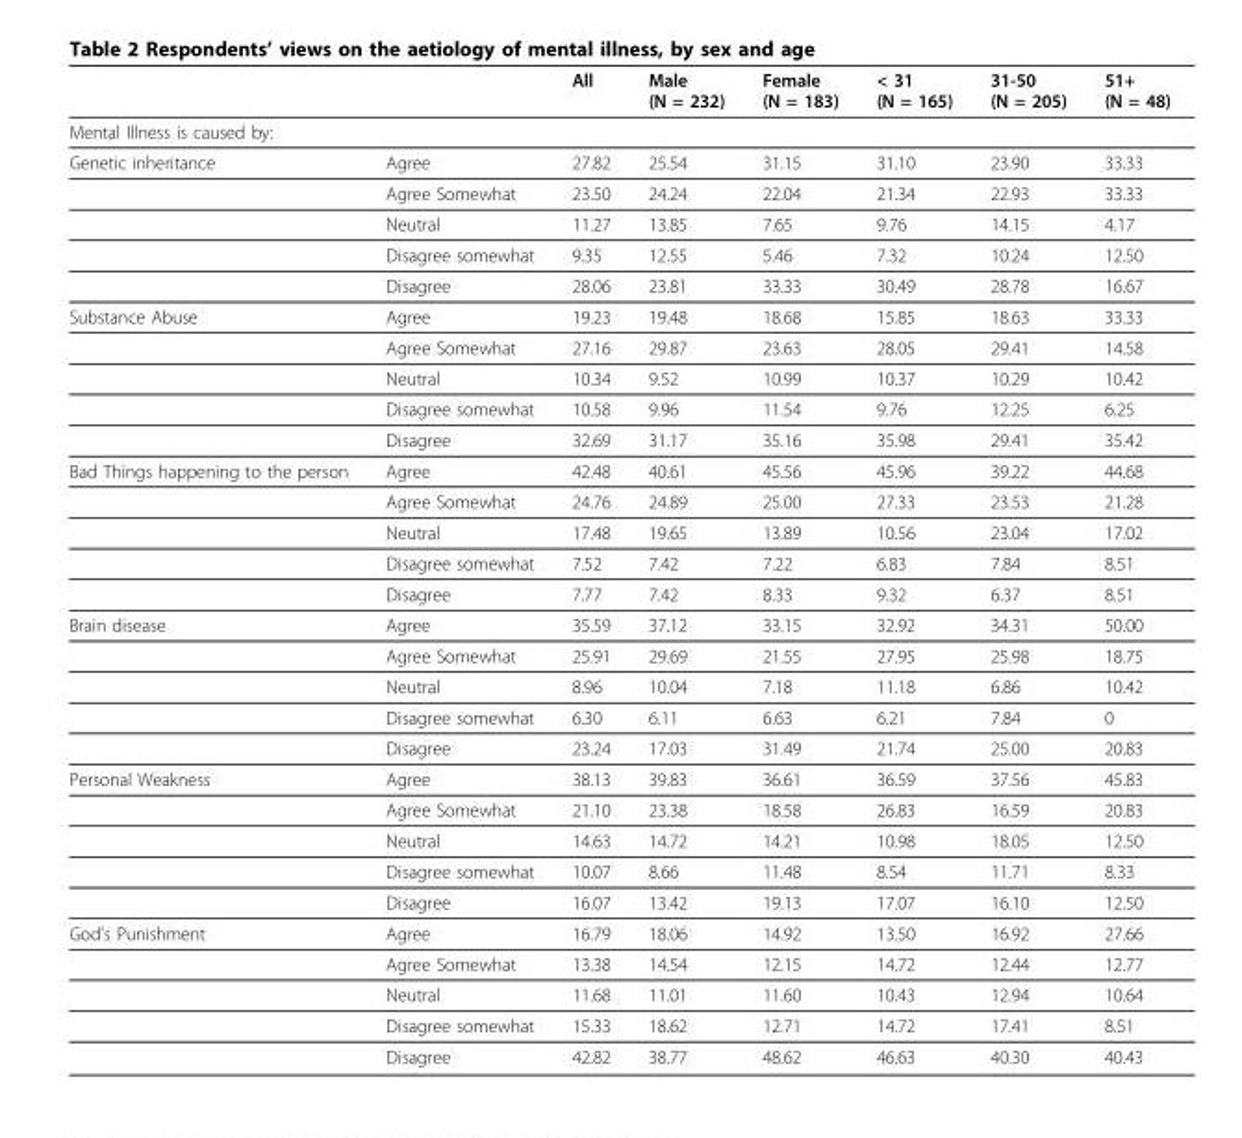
<table><thead><tr><td></td><td></td><td>All</td><td>Male (N = 232)</td><td>Female (N = 183)</td><td>&lt; 31 (N = 165)</td><td>31-50 (N = 205)</td><td>51+ (N = 48)</td></tr></thead><tbody><tr><td colspan="8">Mental Illness is caused by:</td></tr><tr><td rowspan="5">Genetic inheritance</td><td>Agree</td><td>27.82</td><td>25.54</td><td>31.15</td><td>31.10</td><td>23.90</td><td>33.33</td></tr><tr><td>Agree Somewhat</td><td>23.50</td><td>24.24</td><td>22.04</td><td>21.34</td><td>22.93</td><td>33.33</td></tr><tr><td>Neutral</td><td>11.27</td><td>13.85</td><td>7.65</td><td>9.76</td><td>14.15</td><td>4.17</td></tr><tr><td>Disagree somewhat</td><td>9.35</td><td>12.55</td><td>5.46</td><td>7.32</td><td>10.24</td><td>12.50</td></tr><tr><td>Disagree</td><td>28.06</td><td>23.81</td><td>33.33</td><td>30.49</td><td>28.78</td><td>16.67</td></tr><tr><td rowspan="5">Substance Abuse</td><td>Agree</td><td>19.23</td><td>19.48</td><td>18.68</td><td>15.85</td><td>18.63</td><td>33.33</td></tr><tr><td>Agree Somewhat</td><td>27.16</td><td>29.87</td><td>23.63</td><td>28.05</td><td>29.41</td><td>14.58</td></tr><tr><td>Neutral</td><td>10.34</td><td>9.52</td><td>10.99</td><td>10.37</td><td>10.29</td><td>10.42</td></tr><tr><td>Disagree somewhat</td><td>10.58</td><td>9.96</td><td>11.54</td><td>9.76</td><td>12.25</td><td>6.25</td></tr><tr><td>Disagree</td><td>32.69</td><td>31.17</td><td>35.16</td><td>35.98</td><td>29.41</td><td>35.42</td></tr><tr><td rowspan="5">Bad Things happening to the person</td><td>Agree</td><td>42.48</td><td>40.61</td><td>45.56</td><td>45.96</td><td>39.22</td><td>44.68</td></tr><tr><td>Agree Somewhat</td><td>24.76</td><td>24.89</td><td>25.00</td><td>27.33</td><td>23.53</td><td>21.28</td></tr><tr><td>Neutral</td><td>17.48</td><td>19.65</td><td>13.89</td><td>10.56</td><td>23.04</td><td>17.02</td></tr><tr><td>Disagree somewhat</td><td>7.52</td><td>7.42</td><td>7.22</td><td>6.83</td><td>7.84</td><td>8.51</td></tr><tr><td>Disagree</td><td>7.77</td><td>7.42</td><td>8.33</td><td>9.32</td><td>6.37</td><td>8.51</td></tr><tr><td rowspan="5">Brain disease</td><td>Agree</td><td>35.59</td><td>37.12</td><td>33.15</td><td>32.92</td><td>34.31</td><td>50.00</td></tr><tr><td>Agree Somewhat</td><td>25.91</td><td>29.69</td><td>21.55</td><td>27.95</td><td>25.98</td><td>18.75</td></tr><tr><td>Neutral</td><td>8.96</td><td>10.04</td><td>7.18</td><td>11.18</td><td>6.86</td><td>10.42</td></tr><tr><td>Disagree somewhat</td><td>6.30</td><td>6.11</td><td>6.63</td><td>6.21</td><td>7.84</td><td>0</td></tr><tr><td>Disagree</td><td>23.24</td><td>17.03</td><td>31.49</td><td>21.74</td><td>25.00</td><td>20.83</td></tr><tr><td rowspan="5">Personal Weakness</td><td>Agree</td><td>38.13</td><td>39.83</td><td>36.61</td><td>36.59</td><td>37.56</td><td>45.83</td></tr><tr><td>Agree Somewhat</td><td>21.10</td><td>23.38</td><td>18.58</td><td>26.83</td><td>16.59</td><td>20.83</td></tr><tr><td>Neutral</td><td>14.63</td><td>14.72</td><td>14.21</td><td>10.98</td><td>18.05</td><td>12.50</td></tr><tr><td>Disagree somewhat</td><td>10.07</td><td>8.66</td><td>11.48</td><td>8.54</td><td>11.71</td><td>8.33</td></tr><tr><td>Disagree</td><td>16.07</td><td>13.42</td><td>19.13</td><td>17.07</td><td>16.10</td><td>12.50</td></tr><tr><td rowspan="5">God’s Punishment</td><td>Agree</td><td>16.79</td><td>18.06</td><td>14.92</td><td>13.50</td><td>16.92</td><td>27.66</td></tr><tr><td>Agree Somewhat</td><td>13.38</td><td>14.54</td><td>12.15</td><td>14.72</td><td>12.44</td><td>12.77</td></tr><tr><td>Neutral</td><td>11.68</td><td>11.01</td><td>11.60</td><td>10.43</td><td>12.94</td><td>10.64</td></tr><tr><td>Disagree somewhat</td><td>15.33</td><td>18.62</td><td>12.71</td><td>14.72</td><td>17.41</td><td>8.51</td></tr><tr><td>Disagree</td><td>42.82</td><td>38.77</td><td>48.62</td><td>46.63</td><td>40.30</td><td>40.43</td></tr></tbody></table>